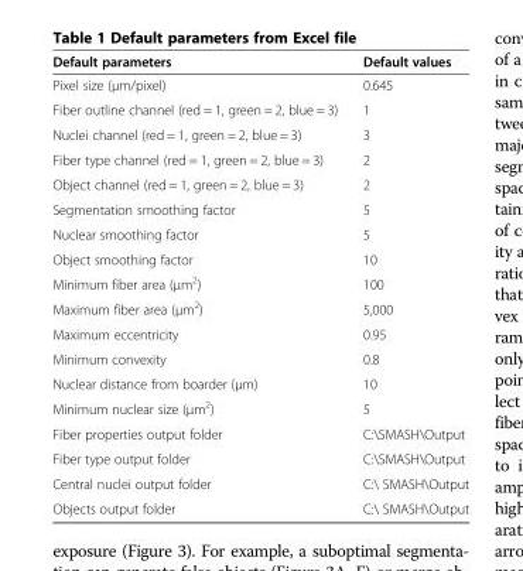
<table><thead><tr><td>Default parameters</td><td>Default values</td></tr></thead><tbody><tr><td>Pixel size (μm/pixel)</td><td>0.645</td></tr><tr><td>Fiber outline channel (red = 1, green = 2, blue = 3)</td><td>1</td></tr><tr><td>Nuclei channel (red = 1, green = 2, blue = 3)</td><td>3</td></tr><tr><td>Fiber type channel (red = 1, green = 2, blue = 3)</td><td>2</td></tr><tr><td>Object channel (red = 1, green = 2, blue = 3)</td><td>2</td></tr><tr><td>Segmentation smoothing factor</td><td>5</td></tr><tr><td>Nuclear smoothing factor</td><td>5</td></tr><tr><td>Object smoothing factor</td><td>10</td></tr><tr><td>Minimum fiber area (μm<sup>2</sup>)</td><td>100</td></tr><tr><td>Maximum fiber area (μm<sup>2</sup>)</td><td>5,000</td></tr><tr><td>Maximum eccentricity</td><td>0.95</td></tr><tr><td>Minimum convexity</td><td>0.8</td></tr><tr><td>Nuclear distance from boarder (μm)</td><td>10</td></tr><tr><td>Minimum nuclear size (μm<sup>2</sup>)</td><td>5</td></tr><tr><td>Fiber properties output folder</td><td>C:\SMASH\Output</td></tr><tr><td>Fiber type output folder</td><td>C:\SMASH\Output</td></tr><tr><td>Central nuclei output folder</td><td>C:\ SMASH\Output</td></tr><tr><td>Objects output folder</td><td>C:\ SMASH\Output</td></tr></tbody></table>